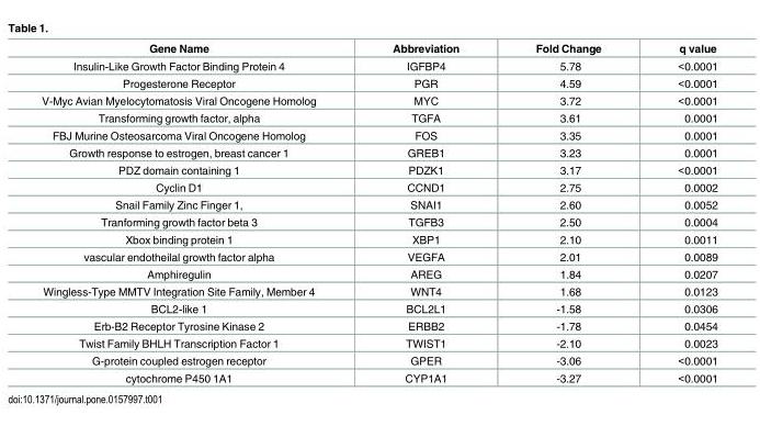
<table><thead><tr><td>Gene Name</td><td>Abbreviation</td><td>Fold Change</td><td>q value</td></tr></thead><tbody><tr><td>Insulin-Like Growth Factor Binding Protein 4</td><td>IGFBP4</td><td>5.78</td><td>&lt;0.0001</td></tr><tr><td>Progesterone Receptor</td><td>PGR</td><td>4.59</td><td>&lt;0.0001</td></tr><tr><td>V-Myc Avian Myelocytomatosis Viral Oncogene Homolog</td><td>MYC</td><td>3.72</td><td>&lt;0.0001</td></tr><tr><td>Transforming growth factor, alpha</td><td>TGFA</td><td>3.61</td><td>0.0001</td></tr><tr><td>FBJ Murine Osteosarcoma Viral Oncogene Homolog</td><td>FOS</td><td>3.35</td><td>0.0001</td></tr><tr><td>Growth response to estrogen, breast cancer 1</td><td>GREB1</td><td>3.23</td><td>0.0001</td></tr><tr><td>PDZ domain containing 1</td><td>PDZK1</td><td>3.17</td><td>&lt;0.0001</td></tr><tr><td>Cyclin D1</td><td>CCND1</td><td>2.75</td><td>0.0002</td></tr><tr><td>Snail Family Zinc Finger 1,</td><td>SNAI1</td><td>2.60</td><td>0.0052</td></tr><tr><td>Tranforming growth factor beta 3</td><td>TGFB3</td><td>2.50</td><td>0.0004</td></tr><tr><td>Xbox binding protein 1</td><td>XBP1</td><td>2.10</td><td>0.0011</td></tr><tr><td>vascular endotheilal growth factor alpha</td><td>VEGFA</td><td>2.01</td><td>0.0089</td></tr><tr><td>Amphiregulin</td><td>AREG</td><td>1.84</td><td>0.0207</td></tr><tr><td>Wingless-Type MMTV Integration Site Family, Member 4</td><td>WNT4</td><td>1.68</td><td>0.0123</td></tr><tr><td>BCL2-like 1</td><td>BCL2L1</td><td>-1.58</td><td>0.0306</td></tr><tr><td>Erb-B2 Receptor Tyrosine Kinase 2</td><td>ERBB2</td><td>-1.78</td><td>0.0454</td></tr><tr><td>Twist Family BHLH Transcription Factor 1</td><td>TWIST1</td><td>-2.10</td><td>0.0023</td></tr><tr><td>G-protein coupled estrogen receptor</td><td>GPER</td><td>-3.06</td><td>&lt;0.0001</td></tr><tr><td>cytochrome P450 1A1</td><td>CYP1A1</td><td>-3.27</td><td>&lt;0.0001</td></tr></tbody></table>